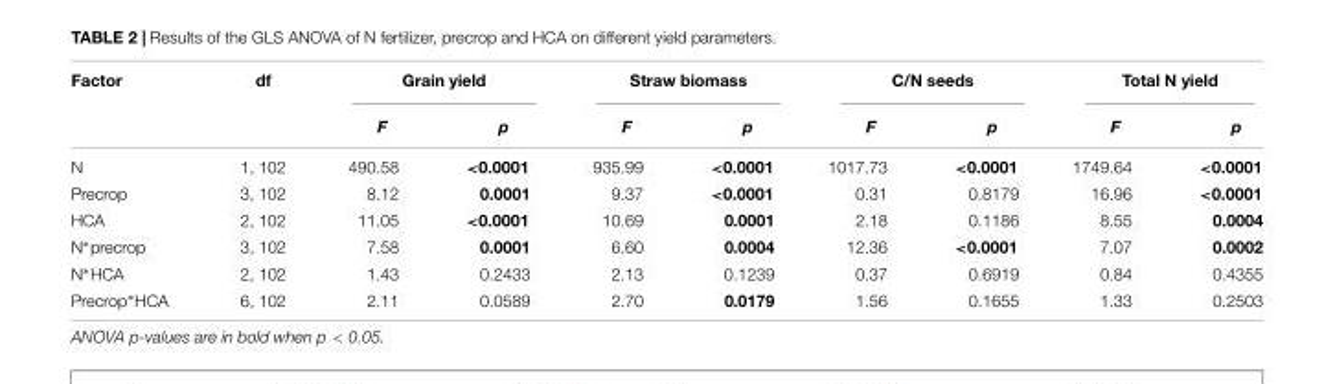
<table><thead><tr><td rowspan="2">Factor</td><td rowspan="2">df</td><td colspan="2">Grain yield</td><td colspan="2">Straw biomass</td><td colspan="2">C/N seeds</td><td colspan="2">Total N yield</td></tr><tr><td>F</td><td>p</td><td>F</td><td>p</td><td>F</td><td>p</td><td>F</td><td>p</td></tr></thead><tbody><tr><td>N</td><td>1, 102</td><td>490.58</td><td>&lt;0.0001</td><td>935.99</td><td>&lt;0.0001</td><td>1017.73</td><td>&lt;0.0001</td><td>1749.64</td><td>&lt;0.0001</td></tr><tr><td>Precrop</td><td>3, 102</td><td>8.12</td><td>0.0001</td><td>9.37</td><td>&lt;0.0001</td><td>0.31</td><td>0.8179</td><td>16.96</td><td>&lt;0.0001</td></tr><tr><td>HCA</td><td>2, 102</td><td>11.05</td><td>&lt;0.0001</td><td>10.69</td><td>0.0001</td><td>2.18</td><td>0.1186</td><td>8.55</td><td>0.0004</td></tr><tr><td>N∗precrop</td><td>3, 102</td><td>7.58</td><td>0.0001</td><td>6.60</td><td>0.0004</td><td>12.36</td><td>&lt;0.0001</td><td>7.07</td><td>0.0002</td></tr><tr><td>N∗HCA</td><td>2, 102</td><td>1.43</td><td>0.2433</td><td>2.13</td><td>0.1239</td><td>0.37</td><td>0.6919</td><td>0.84</td><td>0.4355</td></tr><tr><td>Precrop∗HCA</td><td>6, 102</td><td>2.11</td><td>0.0589</td><td>2.70</td><td>0.0179</td><td>1.56</td><td>0.1655</td><td>1.33</td><td>0.2503</td></tr></tbody></table>